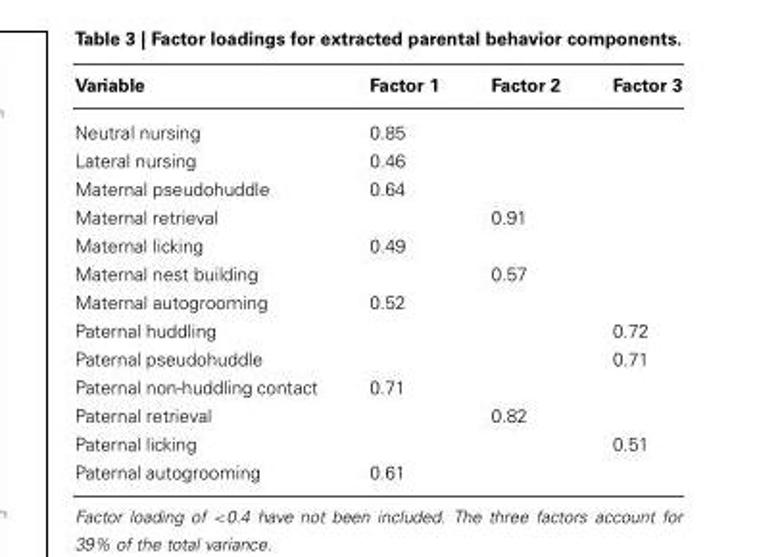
<table><thead><tr><td>Variable</td><td>Factor 1</td><td>Factor 2</td><td>Factor 3</td></tr></thead><tbody><tr><td>Neutral nursing</td><td>0.85</td><td></td><td></td></tr><tr><td>Lateral nursing</td><td>0.46</td><td></td><td></td></tr><tr><td>Maternal pseudohuddle</td><td>0.64</td><td></td><td></td></tr><tr><td>Maternal retrieval</td><td></td><td>0.91</td><td></td></tr><tr><td>Maternal licking</td><td>0.49</td><td></td><td></td></tr><tr><td>Maternal nest building</td><td></td><td>0.57</td><td></td></tr><tr><td>Maternal autogrooming</td><td>0.52</td><td></td><td></td></tr><tr><td>Paternal huddling</td><td></td><td></td><td>0.72</td></tr><tr><td>Paternal pseudohuddle</td><td></td><td></td><td>0.71</td></tr><tr><td>Paternal non-huddling contact</td><td>0.71</td><td></td><td></td></tr><tr><td>Paternal retrieval</td><td></td><td>0.82</td><td></td></tr><tr><td>Paternal licking</td><td></td><td></td><td>0.51</td></tr><tr><td>Paternal autogrooming</td><td>0.61</td><td></td><td></td></tr></tbody></table>